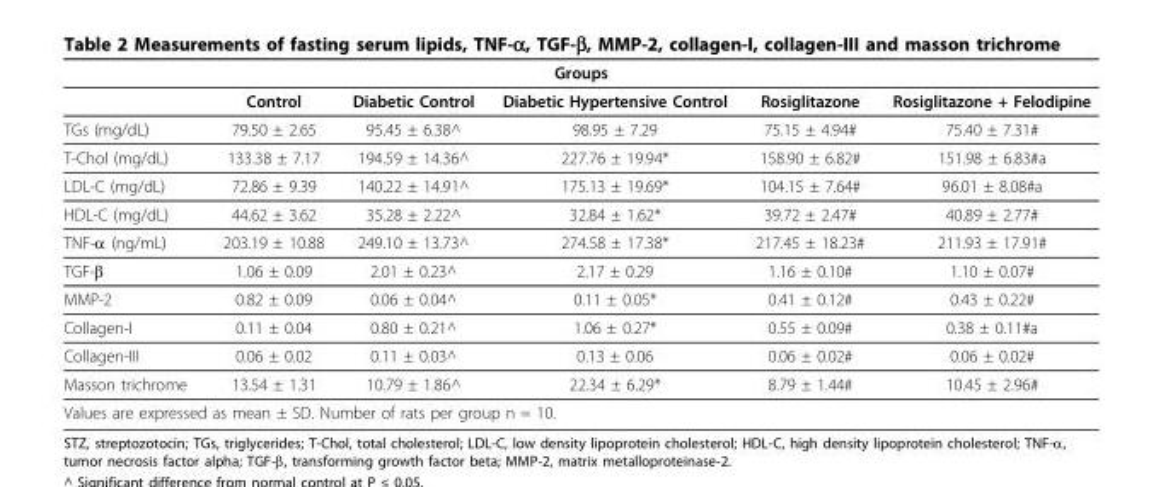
<table><thead><tr><td colspan="6">Groups</td></tr><tr><td></td><td>Control</td><td>Diabetic Control</td><td>Diabetic Hypertensive Control</td><td>Rosiglitazone</td><td>Rosiglitazone + Felodipine</td></tr></thead><tbody><tr><td>TGs (mg/dL)</td><td>79.50 ± 2.65</td><td>95.45 ± 6.38^</td><td>98.95 ± 7.29</td><td>75.15 ± 4.94#</td><td>75.40 ± 7.31#</td></tr><tr><td>T-Chol (mg/dL)</td><td>133.38 ± 7.17</td><td>194.59 ± 14.36^</td><td>227.76 ± 19.94*</td><td>158.90 ± 6.82#</td><td>151.98 ± 6.83#a</td></tr><tr><td>LDL-C (mg/dL)</td><td>72.86 ± 9.39</td><td>140.22 ± 14.91^</td><td>175.13 ± 19.69*</td><td>104.15 ± 7.64#</td><td>96.01 ± 8.08#a</td></tr><tr><td>HDL-C (mg/dL)</td><td>44.62 ± 3.62</td><td>35.28 ± 2.22^</td><td>32.84 ± 1.62*</td><td>39.72 ± 2.47#</td><td>40.89 ± 2.77#</td></tr><tr><td>TNF-α (ng/mL)</td><td>203.19 ± 10.88</td><td>249.10 ± 13.73^</td><td>274.58 ± 17.38*</td><td>217.45 ± 18.23#</td><td>211.93 ± 17.91#</td></tr><tr><td>TGF-β</td><td>1.06 ± 0.09</td><td>2.01 ± 0.23^</td><td>2.17 ± 0.29</td><td>1.16 ± 0.10#</td><td>1.10 ± 0.07#</td></tr><tr><td>MMP-2</td><td>0.82 ± 0.09</td><td>0.06 ± 0.04^</td><td>0.11 ± 0.05*</td><td>0.41 ± 0.12#</td><td>0.43 ± 0.22#</td></tr><tr><td>Collagen-I</td><td>0.11 ± 0.04</td><td>0.80 ± 0.21^</td><td>1.06 ± 0.27*</td><td>0.55 ± 0.09#</td><td>0.38 ± 0.11#a</td></tr><tr><td>Collagen-III</td><td>0.06 ± 0.02</td><td>0.11 ± 0.03^</td><td>0.13 ± 0.06</td><td>0.06 ± 0.02#</td><td>0.06 ± 0.02#</td></tr><tr><td>Masson trichrome</td><td>13.54 ± 1.31</td><td>10.79 ± 1.86^</td><td>22.34 ± 6.29*</td><td>8.79 ± 1.44#</td><td>10.45 ± 2.96#</td></tr><tr><td colspan="6">Values are expressed as mean ± SD. Number of rats per group n = 10.</td></tr></tbody></table>